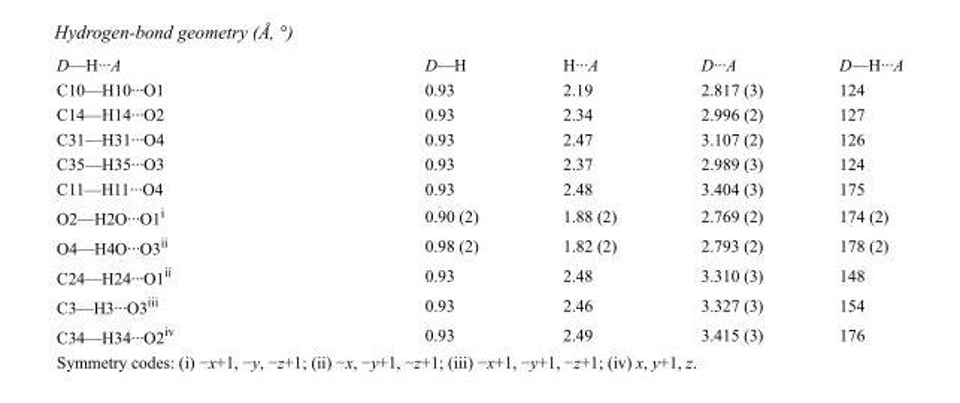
<table><tbody><tr><td>D—H···A</td><td>D—H</td><td>H···A</td><td>D···A</td><td>D—H···A</td></tr><tr><td>C10—H10···O1</td><td>0.93</td><td>2.19</td><td>2.817 (3)</td><td>124</td></tr><tr><td>C14—H14···O2</td><td>0.93</td><td>2.34</td><td>2.996 (2)</td><td>127</td></tr><tr><td>C31—H31···O4</td><td>0.93</td><td>2.47</td><td>3.107 (2)</td><td>126</td></tr><tr><td>C35—H35···O3</td><td>0.93</td><td>2.37</td><td>2.989 (3)</td><td>124</td></tr><tr><td>C11—H11···O4</td><td>0.93</td><td>2.48</td><td>3.404 (3)</td><td>175</td></tr><tr><td>O2—H2O···O1<sup>i</sup></td><td>0.90 (2)</td><td>1.88 (2)</td><td>2.769 (2)</td><td>174 (2)</td></tr><tr><td>O4—H4O···O3<sup>ii</sup></td><td>0.98 (2)</td><td>1.82 (2)</td><td>2.793 (2)</td><td>178 (2)</td></tr><tr><td>C24—H24···O1<sup>ii</sup></td><td>0.93</td><td>2.48</td><td>3.310 (3)</td><td>148</td></tr><tr><td>C3—H3···O3<sup>iii</sup></td><td>0.93</td><td>2.46</td><td>3.327 (3)</td><td>154</td></tr><tr><td>C34—H34···O2<sup>iv</sup></td><td>0.93</td><td>2.49</td><td>3.415 (3)</td><td>176</td></tr></tbody></table>